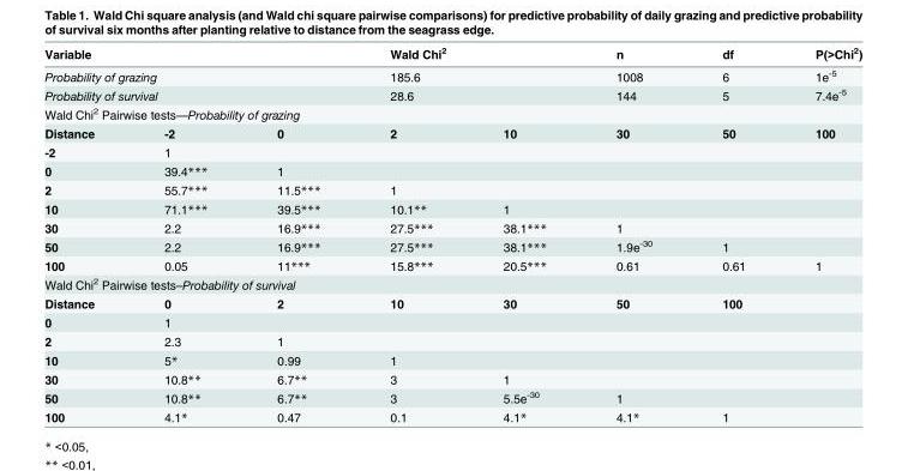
<table><thead><tr><td colspan="3">Variable</td><td colspan="2">Wald Chi<sup>2</sup></td><td>n</td><td>df</td><td>P(&gt;Chi<sup>2</sup>)</td></tr></thead><tbody><tr><td colspan="3">Probability of grazing</td><td>185.6</td><td></td><td>1008</td><td>6</td><td>1e<sup>-5</sup></td></tr><tr><td colspan="3">Probability of survival</td><td>28.6</td><td></td><td>144</td><td>5</td><td>7.4e<sup>-5</sup></td></tr><tr><td colspan="8">Wald Chi<sup>2</sup> Pairwise tests—Probability of grazing</td></tr><tr><td>Distance</td><td>-2</td><td>0</td><td>2</td><td>10</td><td>30</td><td>50</td><td>100</td></tr><tr><td>-2</td><td>1</td><td></td><td></td><td></td><td></td><td></td><td></td></tr><tr><td>0</td><td>39.4***</td><td>1</td><td></td><td></td><td></td><td></td><td></td></tr><tr><td>2</td><td>55.7***</td><td>11.5***</td><td>1</td><td></td><td></td><td></td><td></td></tr><tr><td>10</td><td>71.1***</td><td>39.5***</td><td>10.1**</td><td>1</td><td></td><td></td><td></td></tr><tr><td>30</td><td>2.2</td><td>16.9***</td><td>27.5***</td><td>38.1***</td><td>1</td><td></td><td></td></tr><tr><td>50</td><td>2.2</td><td>16.9***</td><td>27.5***</td><td>38.1***</td><td>1.9e<sup>-30</sup></td><td>1</td><td></td></tr><tr><td>100</td><td>0.05</td><td>11***</td><td>15.8***</td><td>20.5***</td><td>0.61</td><td>0.61</td><td>1</td></tr><tr><td colspan="8">Wald Chi<sup>2</sup> Pairwise tests–Probability of survival</td></tr><tr><td>Distance</td><td>0</td><td>2</td><td>10</td><td>30</td><td>50</td><td>100</td><td></td></tr><tr><td>0</td><td>1</td><td></td><td></td><td></td><td></td><td></td><td></td></tr><tr><td>2</td><td>2.3</td><td>1</td><td></td><td></td><td></td><td></td><td></td></tr><tr><td>10</td><td>5*</td><td>0.99</td><td>1</td><td></td><td></td><td></td><td></td></tr><tr><td>30</td><td>10.8**</td><td>6.7**</td><td>3</td><td>1</td><td></td><td></td><td></td></tr><tr><td>50</td><td>10.8**</td><td>6.7**</td><td>3</td><td>5.5e<sup>-30</sup></td><td>1</td><td></td><td></td></tr><tr><td>100</td><td>4.1*</td><td>0.47</td><td>0.1</td><td>4.1*</td><td>4.1*</td><td>1</td><td></td></tr></tbody></table>